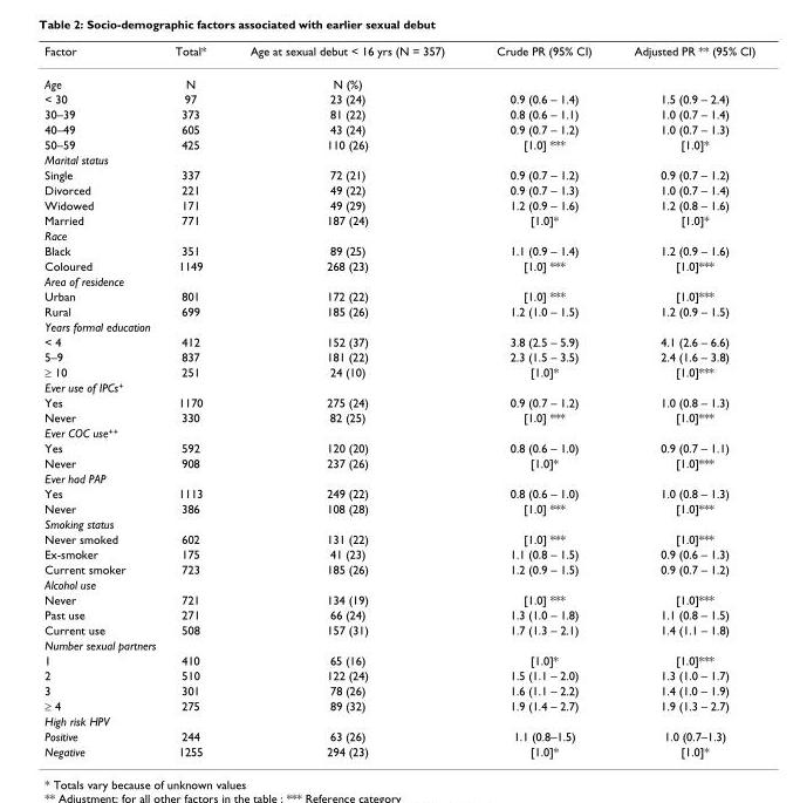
<table><thead><tr><td>Factor</td><td>Total*</td><td>Age at sexual debut &lt; 16 yrs (N = 357)</td><td>Crude PR (95% CI)</td><td>Adjusted PR ** (95% CI)</td></tr></thead><tbody><tr><td>Age</td><td>N</td><td>N (%)</td><td></td><td></td></tr><tr><td>&lt; 30</td><td>97</td><td>23 (24)</td><td>0.9 (0.6 – 1.4)</td><td>1.5 (0.9 – 2.4)</td></tr><tr><td>30–39</td><td>373</td><td>81 (22)</td><td>0.8 (0.6 – 1.1)</td><td>1.0 (0.7 – 1.4)</td></tr><tr><td>40–49</td><td>605</td><td>43 (24)</td><td>0.9 (0.7 – 1.2)</td><td>1.0 (0.7 – 1.3)</td></tr><tr><td>50–59</td><td>425</td><td>110 (26)</td><td>[1.0] ***</td><td>[1.0]*</td></tr><tr><td colspan="5">Marital status</td></tr><tr><td>Single</td><td>337</td><td>72 (21)</td><td>0.9 (0.7 – 1.2)</td><td>0.9 (0.7 – 1.2)</td></tr><tr><td>Divorced</td><td>221</td><td>49 (22)</td><td>0.9 (0.7 – 1.3)</td><td>1.0 (0.7 – 1.4)</td></tr><tr><td>Widowed</td><td>171</td><td>49 (29)</td><td>1.2 (0.9 – 1.6)</td><td>1.2 (0.8 – 1.6)</td></tr><tr><td>Married</td><td>771</td><td>187 (24)</td><td>[1.0]*</td><td>[1.0]*</td></tr><tr><td colspan="5">Race</td></tr><tr><td>Black</td><td>351</td><td>89 (25)</td><td>1.1 (0.9 – 1.4)</td><td>1.2 (0.9 – 1.6)</td></tr><tr><td>Coloured</td><td>1149</td><td>268 (23)</td><td>[1.0] ***</td><td>[1.0]***</td></tr><tr><td colspan="5">Area of residence</td></tr><tr><td>Urban</td><td>801</td><td>172 (22)</td><td>[1.0] ***</td><td>[1.0]***</td></tr><tr><td>Rural</td><td>699</td><td>185 (26)</td><td>1.2 (1.0 – 1.5)</td><td>1.2 (0.9 – 1.5)</td></tr><tr><td colspan="5">Years formal education</td></tr><tr><td>&lt; 4</td><td>412</td><td>152 (37)</td><td>3.8 (2.5 – 5.9)</td><td>4.1 (2.6 – 6.6)</td></tr><tr><td>5–9</td><td>837</td><td>181 (22)</td><td>2.3 (1.5 – 3.5)</td><td>2.4 (1.6 – 3.8)</td></tr><tr><td>≥ 10</td><td>251</td><td>24 (10)</td><td>[1.0]*</td><td>[1.0]***</td></tr><tr><td colspan="5">Ever use of IPCs<sup>+</sup></td></tr><tr><td>Yes</td><td>1170</td><td>275 (24)</td><td>0.9 (0.7 – 1.2)</td><td>1.0 (0.8 – 1.3)</td></tr><tr><td>Never</td><td>330</td><td>82 (25)</td><td>[1.0] ***</td><td>[1.0]***</td></tr><tr><td colspan="5">Ever COC use<sup>++</sup></td></tr><tr><td>Yes</td><td>592</td><td>120 (20)</td><td>0.8 (0.6 – 1.0)</td><td>0.9 (0.7 – 1.1)</td></tr><tr><td>Never</td><td>908</td><td>237 (26)</td><td>[1.0]*</td><td>[1.0]***</td></tr><tr><td colspan="5">Ever had PAP</td></tr><tr><td>Yes</td><td>1113</td><td>249 (22)</td><td>0.8 (0.6 – 1.0)</td><td>1.0 (0.8 – 1.3)</td></tr><tr><td>Never</td><td>386</td><td>108 (28)</td><td>[1.0] ***</td><td>[1.0]***</td></tr><tr><td colspan="5">Smoking status</td></tr><tr><td>Never smoked</td><td>602</td><td>131 (22)</td><td>[1.0] ***</td><td>[1.0]***</td></tr><tr><td>Ex-smoker</td><td>175</td><td>41 (23)</td><td>1.1 (0.8 – 1.5)</td><td>0.9 (0.6 – 1.3)</td></tr><tr><td>Current smoker</td><td>723</td><td>185 (26)</td><td>1.2 (0.9 – 1.5)</td><td>0.9 (0.7 – 1.2)</td></tr><tr><td colspan="5">Alcohol use</td></tr><tr><td>Never</td><td>721</td><td>134 (19)</td><td>[1.0] ***</td><td>[1.0]***</td></tr><tr><td>Past use</td><td>271</td><td>66 (24)</td><td>1.3 (1.0 – 1.8)</td><td>1.1 (0.8 – 1.5)</td></tr><tr><td>Current use</td><td>508</td><td>157 (31)</td><td>1.7 (1.3 – 2.1)</td><td>1.4 (1.1 – 1.8)</td></tr><tr><td colspan="5">Number sexual partners</td></tr><tr><td>1</td><td>410</td><td>65 (16)</td><td>[1.0]*</td><td>[1.0]***</td></tr><tr><td>2</td><td>510</td><td>122 (24)</td><td>1.5 (1.1 – 2.0)</td><td>1.3 (1.0 – 1.7)</td></tr><tr><td>3</td><td>301</td><td>78 (26)</td><td>1.6 (1.1 – 2.2)</td><td>1.4 (1.0 – 1.9)</td></tr><tr><td>≥ 4</td><td>275</td><td>89 (32)</td><td>1.9 (1.4 – 2.7)</td><td>1.9 (1.3 – 2.7)</td></tr><tr><td colspan="5">High risk HPV</td></tr><tr><td>Positive</td><td>244</td><td>63 (26)</td><td>1.1 (0.8–1.5)</td><td>1.0 (0.7–1.3)</td></tr><tr><td>Negative</td><td>1255</td><td>294 (23)</td><td>[1.0]*</td><td>[1.0]*</td></tr></tbody></table>